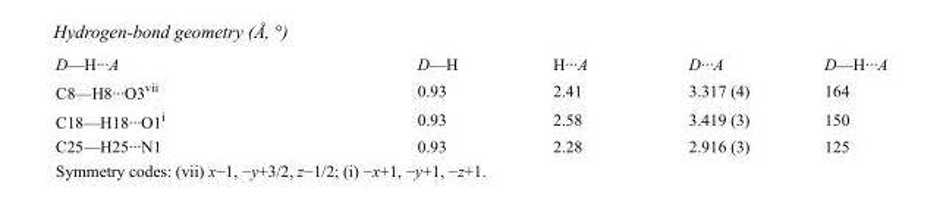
<table><tbody><tr><td>D—H···A</td><td>D—H</td><td>H···A</td><td>D···A</td><td>D—H···A</td></tr><tr><td>C8—H8···O3<sup>vii</sup></td><td>0.93</td><td>2.41</td><td>3.317 (4)</td><td>164</td></tr><tr><td>C18—H18···O1<sup>i</sup></td><td>0.93</td><td>2.58</td><td>3.419 (3)</td><td>150</td></tr><tr><td>C25—H25···N1</td><td>0.93</td><td>2.28</td><td>2.916 (3)</td><td>125</td></tr></tbody></table>